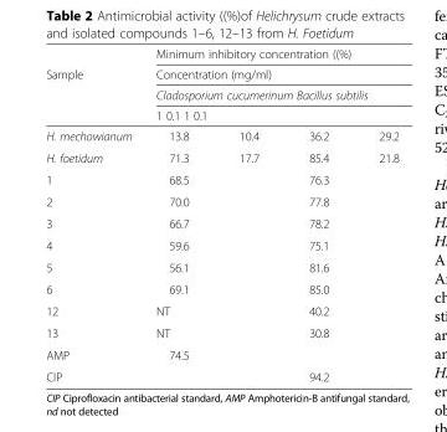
<table><thead><tr><td rowspan="5">Sample H. mechowianum</td><td rowspan="4" colspan="4">Minimum inhibitory concentration ((%) Concentration (mg/ml) Cladosporium cucumerinum Bacillus subtilis 1 0.1 1 0.1</td></tr><tr></tr><tr></tr><tr></tr><tr><td>13.8</td><td>10.4</td><td>36.2</td><td>29.2</td></tr></thead><tbody><tr><td>H. foetidum</td><td>71.3</td><td>17.7</td><td>85.4</td><td>21.8</td></tr><tr><td>1</td><td>68.5</td><td></td><td>76.3</td><td></td></tr><tr><td>2</td><td>70.0</td><td></td><td>77.8</td><td></td></tr><tr><td>3</td><td>66.7</td><td></td><td>78.2</td><td></td></tr><tr><td>4</td><td>59.6</td><td></td><td>75.1</td><td></td></tr><tr><td>5</td><td>56.1</td><td></td><td>81.6</td><td></td></tr><tr><td>6</td><td>69.1</td><td></td><td>85.0</td><td></td></tr><tr><td>12</td><td>NT</td><td></td><td>40.2</td><td></td></tr><tr><td>13</td><td>NT</td><td></td><td>30.8</td><td></td></tr><tr><td>AMP</td><td>74.5</td><td></td><td></td><td></td></tr><tr><td>CIP</td><td></td><td></td><td>94.2</td><td></td></tr></tbody></table>